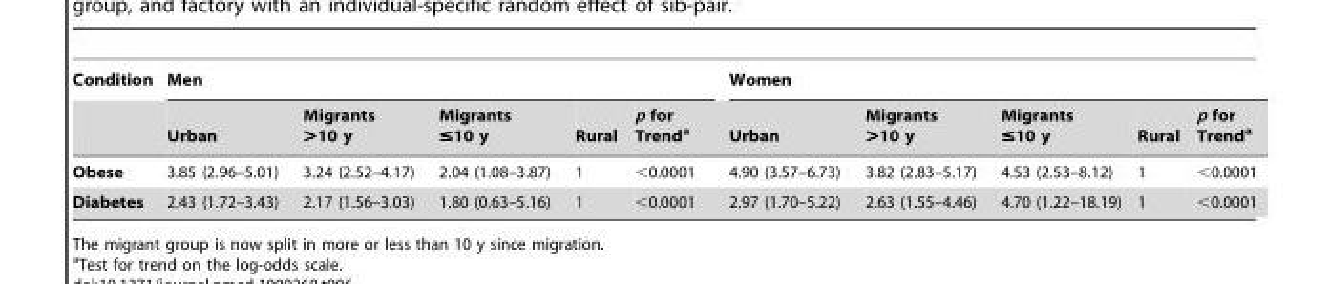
<table><thead><tr><td rowspan="2">Condition</td><td colspan="5">Men</td><td colspan="5">Women</td></tr><tr><td>Urban</td><td>Migrants &gt;10 y</td><td>Migrants ≤10 y</td><td>Rural</td><td>p for Trend<sup>a</sup></td><td>Urban</td><td>Migrants &gt;10 y</td><td>Migrants ≤10 y</td><td>Rural</td><td>p for Trend<sup>a</sup></td></tr></thead><tbody><tr><td>Obese</td><td>3.85 (2.96–5.01)</td><td>3.24 (2.52–4.17)</td><td>2.04 (1.08–3.87)</td><td>1</td><td>&lt;0.0001</td><td>4.90 (3.57–6.73)</td><td>3.82 (2.83–5.17)</td><td>4.53 (2.53–8.12)</td><td>1</td><td>&lt;0.0001</td></tr><tr><td>Diabetes</td><td>2.43 (1.72–3.43)</td><td>2.17 (1.56–3.03)</td><td>1.80 (0.63–5.16)</td><td>1</td><td>&lt;0.0001</td><td>2.97 (1.70–5.22)</td><td>2.63 (1.55–4.46)</td><td>4.70 (1.22–18.19)</td><td>1</td><td>&lt;0.0001</td></tr></tbody></table>